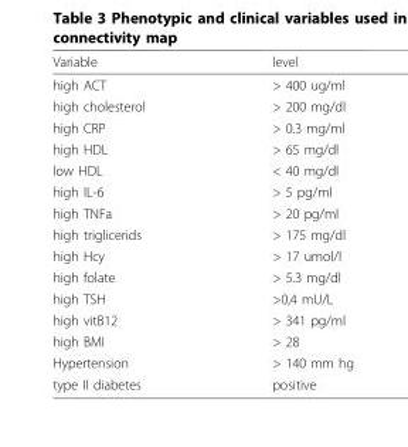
<table><thead><tr><td>Variable</td><td>level</td></tr></thead><tbody><tr><td>high ACT</td><td>&gt; 400 ug/ml</td></tr><tr><td>high cholesterol</td><td>&gt; 200 mg/dl</td></tr><tr><td>high CRP</td><td>&gt; 0.3 mg/ml</td></tr><tr><td>high HDL</td><td>&gt; 65 mg/dl</td></tr><tr><td>low HDL</td><td>&lt; 40 mg/dl</td></tr><tr><td>high IL-6</td><td>&gt; 5 pg/ml</td></tr><tr><td>high TNFa</td><td>&gt; 20 pg/ml</td></tr><tr><td>high triglicerids</td><td>&gt; 175 mg/dl</td></tr><tr><td>high Hcy</td><td>&gt; 17 umol/l</td></tr><tr><td>high folate</td><td>&gt; 5.3 mg/dl</td></tr><tr><td>high TSH</td><td>&gt;0,4 mU/L</td></tr><tr><td>high vitB12</td><td>&gt; 341 pg/ml</td></tr><tr><td>high BMI</td><td>&gt; 28</td></tr><tr><td>Hypertension</td><td>&gt; 140 mm hg</td></tr><tr><td>type II diabetes</td><td>positive</td></tr></tbody></table>